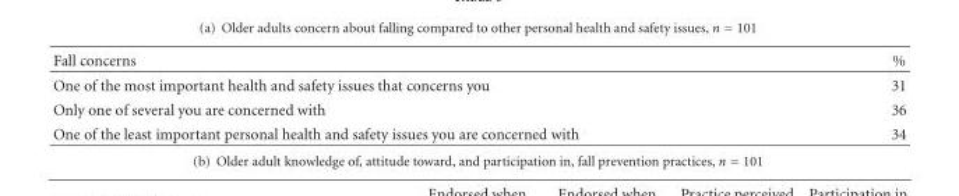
<table><thead><tr><td>Fall concerns</td><td>%</td></tr></thead><tbody><tr><td>One of the most important health and safety issues that concerns you</td><td>31</td></tr><tr><td>Only one of several you are concerned with</td><td>36</td></tr><tr><td>One of the least important personal health and safety issues you are concerned with</td><td>34</td></tr></tbody></table>